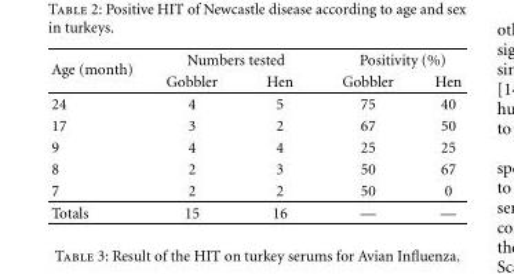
<table><thead><tr><td rowspan="2">Age (month)</td><td colspan="2">Numbers tested</td><td colspan="2">Positivity (%)</td></tr><tr><td>Gobbler</td><td>Hen</td><td>Gobbler</td><td>Hen</td></tr></thead><tbody><tr><td>24</td><td>4</td><td>5</td><td>75</td><td>40</td></tr><tr><td>17</td><td>3</td><td>2</td><td>67</td><td>50</td></tr><tr><td>9</td><td>4</td><td>4</td><td>25</td><td>25</td></tr><tr><td>8</td><td>2</td><td>3</td><td>50</td><td>67</td></tr><tr><td>7</td><td>2</td><td>2</td><td>50</td><td>0</td></tr><tr><td>Totals</td><td>15</td><td>16</td><td>—</td><td>—</td></tr></tbody></table>